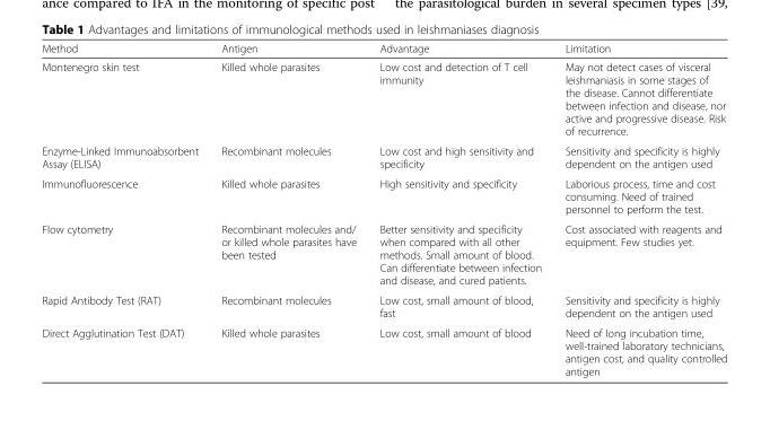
<table><thead><tr><td>Method</td><td>Antigen</td><td>Advantage</td><td>Limitation</td></tr></thead><tbody><tr><td>Montenegro skin test</td><td>Killed whole parasites</td><td>Low cost and detection of T cell immunity</td><td>May not detect cases of visceral leishmaniasis in some stages of the disease. Cannot differentiate between infection and disease, nor active and progressive disease. Risk of recurrence.</td></tr><tr><td>Enzyme-Linked Immunoabsorbent Assay (ELISA)</td><td>Recombinant molecules</td><td>Low cost and high sensitivity and specificity</td><td>Sensitivity and specificity is highly dependent on the antigen used</td></tr><tr><td>Immunofluorescence</td><td>Killed whole parasites</td><td>High sensitivity and specificity</td><td>Laborious process, time and cost consuming. Need of trained personnel to perform the test.</td></tr><tr><td>Flow cytometry</td><td>Recombinant molecules and/ or killed whole parasites have been tested</td><td>Better sensitivity and specificity when compared with all other methods. Small amount of blood. Can differentiate between infection and disease, and cured patients.</td><td>Cost associated with reagents and equipment. Few studies yet.</td></tr><tr><td>Rapid Antibody Test (RAT)</td><td>Recombinant molecules</td><td>Low cost, small amount of blood, fast</td><td>Sensitivity and specificity is highly dependent on the antigen used</td></tr><tr><td>Direct Agglutination Test (DAT)</td><td>Killed whole parasites</td><td>Low cost, small amount of blood</td><td>Need of long incubation time, well-trained laboratory technicians, antigen cost, and quality controlled antigen</td></tr></tbody></table>